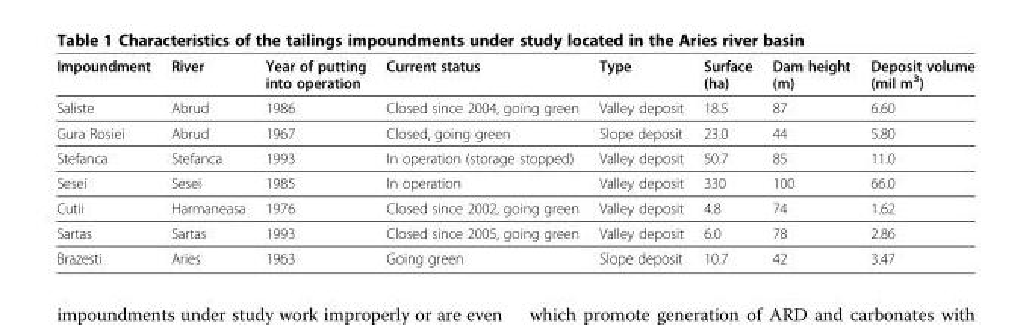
<table><thead><tr><td>Impoundment</td><td>River</td><td>Year of putting into operation</td><td>Current status</td><td>Type</td><td>Surface (ha)</td><td>Dam height (m)</td><td>Deposit volume (mil m<sup>3</sup>)</td></tr></thead><tbody><tr><td>Saliste</td><td>Abrud</td><td>1986</td><td>Closed since 2004, going green</td><td>Valley deposit</td><td>18.5</td><td>87</td><td>6.60</td></tr><tr><td>Gura Rosiei</td><td>Abrud</td><td>1967</td><td>Closed, going green</td><td>Slope deposit</td><td>23.0</td><td>44</td><td>5.80</td></tr><tr><td>Stefanca</td><td>Stefanca</td><td>1993</td><td>In operation (storage stopped)</td><td>Valley deposit</td><td>50.7</td><td>85</td><td>11.0</td></tr><tr><td>Sesei</td><td>Sesei</td><td>1985</td><td>In operation</td><td>Valley deposit</td><td>330</td><td>100</td><td>66.0</td></tr><tr><td>Cutii</td><td>Harmaneasa</td><td>1976</td><td>Closed since 2002, going green</td><td>Valley deposit</td><td>4.8</td><td>74</td><td>1.62</td></tr><tr><td>Sartas</td><td>Sartas</td><td>1993</td><td>Closed since 2005, going green</td><td>Valley deposit</td><td>6.0</td><td>78</td><td>2.86</td></tr><tr><td>Brazesti</td><td>Aries</td><td>1963</td><td>Going green</td><td>Slope deposit</td><td>10.7</td><td>42</td><td>3.47</td></tr></tbody></table>